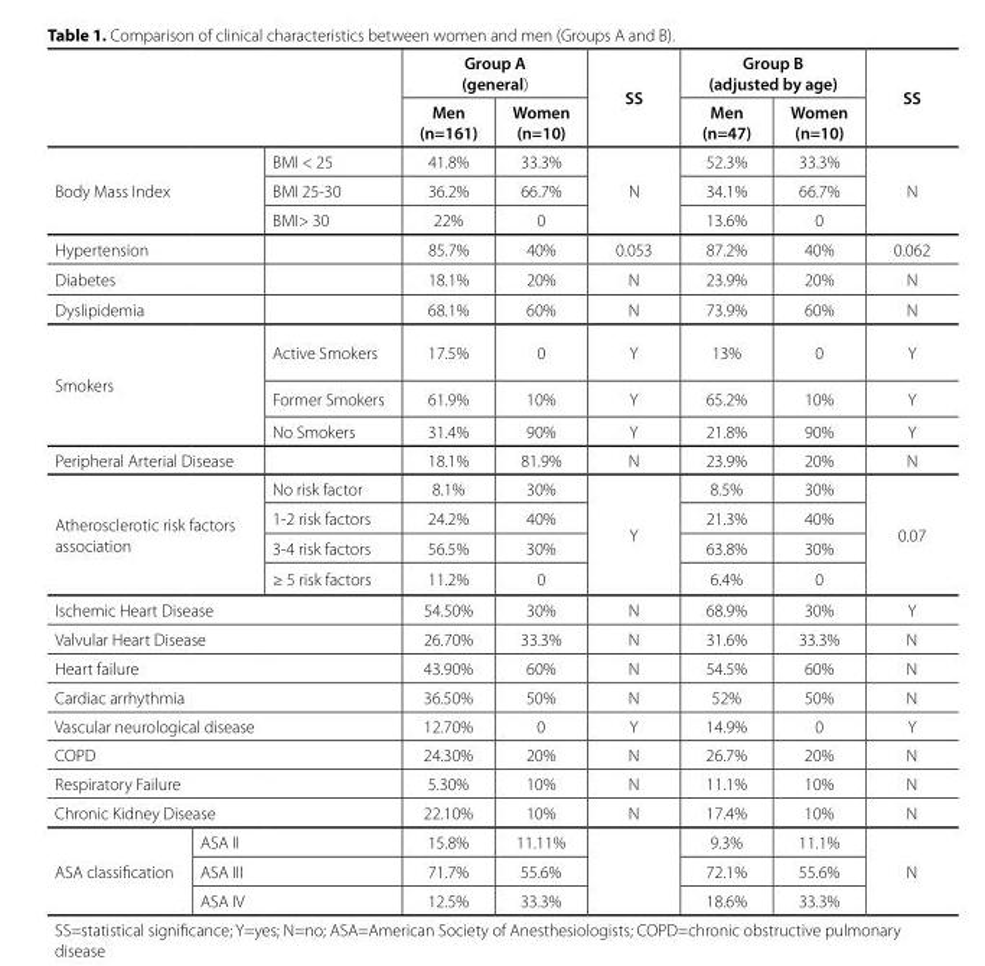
<table><thead><tr><td rowspan="2"></td><td rowspan="2"></td><td rowspan="2"></td><td colspan="2">Group A (general)</td><td rowspan="2">SS</td><td colspan="2">Group B (adjusted by age)</td><td rowspan="2">SS</td></tr><tr><td>Men (n=161)</td><td>Women (n=10)</td><td>Men (n=47)</td><td>Women (n=10)</td></tr></thead><tbody><tr><td rowspan="3" colspan="2">Body Mass Index</td><td>BMI &lt; 25</td><td>41.8%</td><td>33.3%</td><td rowspan="3">N</td><td>52.3%</td><td>33.3%</td><td rowspan="3">N</td></tr><tr><td>BMI 25-30</td><td>36.2%</td><td>66.7%</td><td>34.1%</td><td>66.7%</td></tr><tr><td>BMI&gt; 30</td><td>22%</td><td>0</td><td>13.6%</td><td>0</td></tr><tr><td colspan="2">Hypertension</td><td></td><td>85.7%</td><td>40%</td><td>0.053</td><td>87.2%</td><td>40%</td><td>0.062</td></tr><tr><td colspan="2">Diabetes</td><td></td><td>18.1%</td><td>20%</td><td>N</td><td>23.9%</td><td>20%</td><td>N</td></tr><tr><td colspan="2">Dyslipidemia</td><td></td><td>68.1%</td><td>60%</td><td>N</td><td>73.9%</td><td>60%</td><td>N</td></tr><tr><td rowspan="3" colspan="2">Smokers</td><td>Active Smokers</td><td>17.5%</td><td>0</td><td>Y</td><td>13%</td><td>0</td><td>Y</td></tr><tr><td>Former Smokers</td><td>61.9%</td><td>10%</td><td>Y</td><td>65.2%</td><td>10%</td><td>Y</td></tr><tr><td>No Smokers</td><td>31.4%</td><td>90%</td><td>Y</td><td>21.8%</td><td>90%</td><td>Y</td></tr><tr><td colspan="2">Peripheral Arterial Disease</td><td></td><td>18.1%</td><td>81.9%</td><td>N</td><td>23.9%</td><td>20%</td><td>N</td></tr><tr><td rowspan="4" colspan="2">Atherosclerotic risk factors association</td><td>No risk factor</td><td>8.1%</td><td>30%</td><td rowspan="4">Y</td><td>8.5%</td><td>30%</td><td rowspan="4">0.07</td></tr><tr><td>1-2 risk factors</td><td>24.2%</td><td>40%</td><td>21.3%</td><td>40%</td></tr><tr><td>3-4 risk factors</td><td>56.5%</td><td>30%</td><td>63.8%</td><td>30%</td></tr><tr><td>≥ 5 risk factors</td><td>11.2%</td><td>0</td><td>6.4%</td><td>0</td></tr><tr><td colspan="3">Ischemic Heart Disease</td><td>54.50%</td><td>30%</td><td>N</td><td>68.9%</td><td>30%</td><td>Y</td></tr><tr><td colspan="3">Valvular Heart Disease</td><td>26.70%</td><td>33.3%</td><td>N</td><td>31.6%</td><td>33.3%</td><td>N</td></tr><tr><td colspan="3">Heart failure</td><td>43.90%</td><td>60%</td><td>N</td><td>54.5%</td><td>60%</td><td>N</td></tr><tr><td colspan="3">Cardiac arrhythmia</td><td>36.50%</td><td>50%</td><td>N</td><td>52%</td><td>50%</td><td>N</td></tr><tr><td colspan="3">Vascular neurological disease</td><td>12.70%</td><td>0</td><td>Y</td><td>14.9%</td><td>0</td><td>Y</td></tr><tr><td colspan="3">COPD</td><td>24.30%</td><td>20%</td><td>N</td><td>26.7%</td><td>20%</td><td>N</td></tr><tr><td colspan="3">Respiratory Failure</td><td>5.30%</td><td>10%</td><td>N</td><td>11.1%</td><td>10%</td><td>N</td></tr><tr><td colspan="3">Chronic Kidney Disease</td><td>22.10%</td><td>10%</td><td>N</td><td>17.4%</td><td>10%</td><td>N</td></tr><tr><td rowspan="3">ASA classification</td><td colspan="2">ASA II</td><td>15.8%</td><td>11.11%</td><td rowspan="3"></td><td>9.3%</td><td>11.1%</td><td rowspan="3">N</td></tr><tr><td colspan="2">ASA III</td><td>71.7%</td><td>55.6%</td><td>72.1%</td><td>55.6%</td></tr><tr><td colspan="2">ASA IV</td><td>12.5%</td><td>33.3%</td><td>18.6%</td><td>33.3%</td></tr></tbody></table>